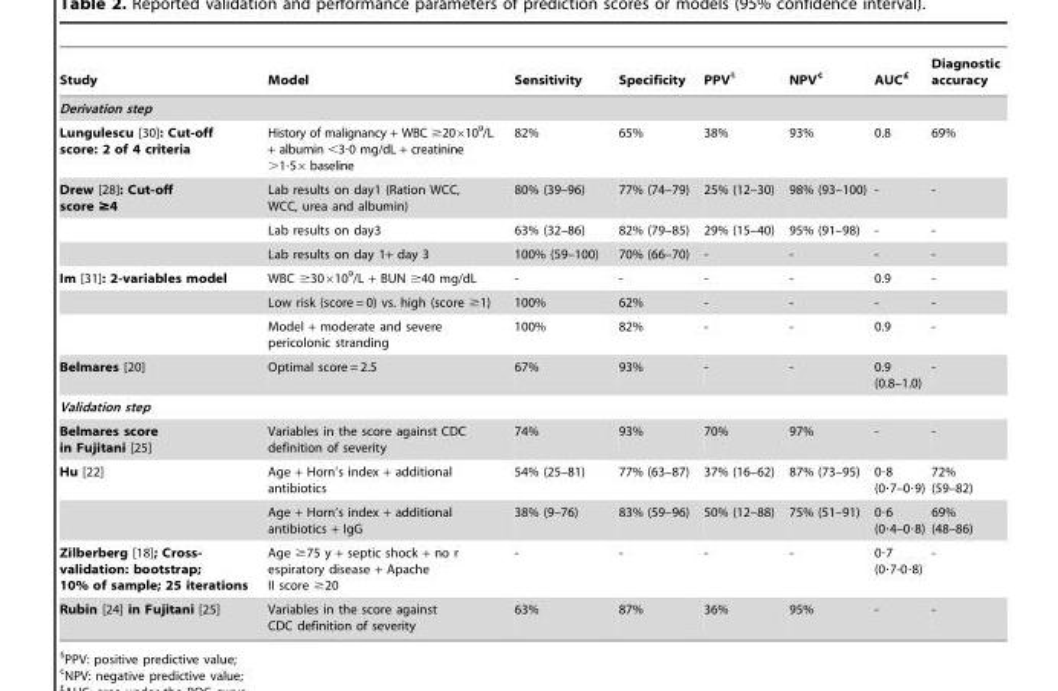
<table><thead><tr><td>Study</td><td>Model</td><td>Sensitivity</td><td>Specificity</td><td>PPV§</td><td>NPV¢</td><td>AUC£</td><td>Diagnostic accuracy</td></tr></thead><tbody><tr><td colspan="8">Derivation step</td></tr><tr><td>Lungulescu [30]: Cut-off score: 2 of 4 criteria</td><td>History of malignancy + WBC ≥20×10<sup>9</sup>/L + albumin &lt;3·0 mg/dL + creatinine &gt;1·5×baseline</td><td>82%</td><td>65%</td><td>38%</td><td>93%</td><td>0.8</td><td>69%</td></tr><tr><td rowspan="3">Drew [28]: Cut-off score ≥4</td><td>Lab results on day1 (Ration WCC, WCC, urea and albumin)</td><td>80% (39–96)</td><td>77% (74–79)</td><td>25% (12–30)</td><td>98% (93–100)</td><td>-</td><td>-</td></tr><tr><td>Lab results on day3</td><td>63% (32–86)</td><td>82% (79–85)</td><td>29% (15–40)</td><td>95% (91–98)</td><td>-</td><td>-</td></tr><tr><td>Lab results on day 1+ day 3</td><td>100% (59–100)</td><td>70% (66–70)</td><td>-</td><td>-</td><td>-</td><td>-</td></tr><tr><td rowspan="3">Im [31]: 2-variables model</td><td>WBC ≥30×10<sup>9</sup>/L + BUN ≥40 mg/dL</td><td>-</td><td>-</td><td>-</td><td>-</td><td>0.9</td><td>-</td></tr><tr><td>Low risk (score = 0) vs. high (score ≥1)</td><td>100%</td><td>62%</td><td>-</td><td>-</td><td>-</td><td>-</td></tr><tr><td>Model + moderate and severe pericolonic stranding</td><td>100%</td><td>82%</td><td>-</td><td>-</td><td>0.9</td><td>-</td></tr><tr><td>Belmares [20]</td><td>Optimal score = 2.5</td><td>67%</td><td>93%</td><td>-</td><td>-</td><td>0.9 (0.8–1.0)</td><td>-</td></tr><tr><td colspan="8">Validation step</td></tr><tr><td>Belmares score in Fujitani [25]</td><td>Variables in the score against CDC definition of severity</td><td>74%</td><td>93%</td><td>70%</td><td>97%</td><td>-</td><td>-</td></tr><tr><td rowspan="2">Hu [22]</td><td>Age + Horn’s index + additional antibiotics</td><td>54% (25–81)</td><td>77% (63–87)</td><td>37% (16–62)</td><td>87% (73–95)</td><td>0·8 (0·7–0·9)</td><td>72% (59–82)</td></tr><tr><td>Age + Horn’s index + additional antibiotics + IgG</td><td>38% (9–76)</td><td>83% (59–96)</td><td>50% (12–88)</td><td>75% (51–91)</td><td>0·6 (0·4–0·8)</td><td>69% (48–86)</td></tr><tr><td>Zilberberg [18]; Cross- validation: bootstrap; 10% of sample; 25 iterations</td><td>Age ≥75 y + septic shock + no r espiratory disease + Apache II score ≥20</td><td>-</td><td>-</td><td>-</td><td>-</td><td>0·7 (0·7-0·8)</td><td>-</td></tr><tr><td>Rubin [24] in Fujitani [25]</td><td>Variables in the score against CDC definition of severity</td><td>63%</td><td>87%</td><td>36%</td><td>95%</td><td>-</td><td>-</td></tr></tbody></table>